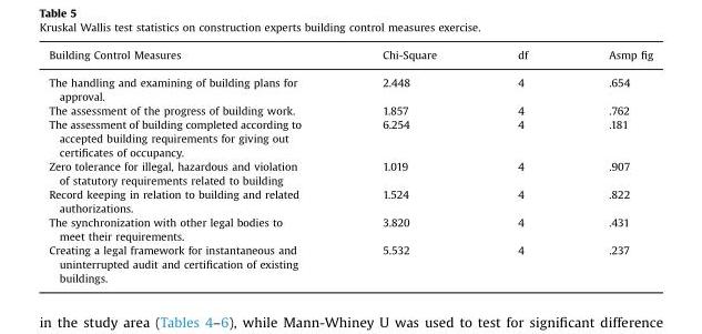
<table><thead><tr><td>Building Control Measures</td><td>Chi-Square</td><td>df</td><td>Asmp fig</td></tr></thead><tbody><tr><td>The handling and examining of building plans for approval.</td><td>2.448</td><td>4</td><td>.654</td></tr><tr><td>The assessment of the progress of building work.</td><td>1.857</td><td>4</td><td>.762</td></tr><tr><td>The assessment of building completed according to accepted building requirements for giving out certificates of occupancy.</td><td>6.254</td><td>4</td><td>.181</td></tr><tr><td>Zero tolerance for illegal, hazardous and violation of statutory requirements related to building</td><td>1.019</td><td>4</td><td>.907</td></tr><tr><td>Record keeping in relation to building and related authorizations.</td><td>1.524</td><td>4</td><td>.822</td></tr><tr><td>The synchronization with other legal bodies to meet their requirements.</td><td>3.820</td><td>4</td><td>.431</td></tr><tr><td>Creating a legal framework for instantaneous and uninterrupted audit and certification of existing buildings.</td><td>5.532</td><td>4</td><td>.237</td></tr></tbody></table>